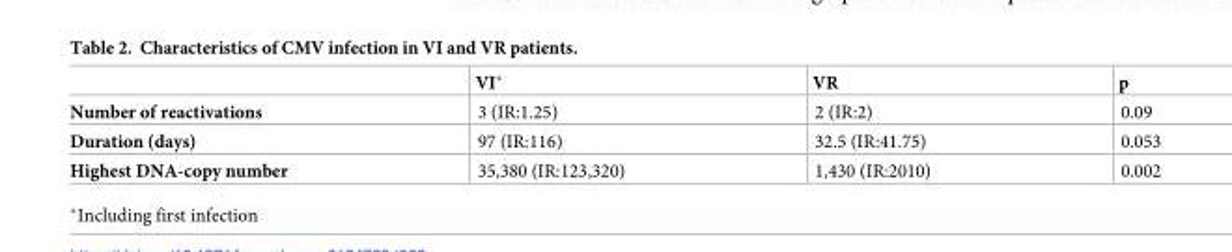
<table><thead><tr><td></td><td>VI*</td><td>VR</td><td>p</td></tr></thead><tbody><tr><td>Number of reactivations</td><td>3 (IR:1.25)</td><td>2 (IR:2)</td><td>0.09</td></tr><tr><td>Duration (days)</td><td>97 (IR:116)</td><td>32.5 (IR:41.75)</td><td>0.053</td></tr><tr><td>Highest DNA-copy number</td><td>35,380 (IR:123,320)</td><td>1,430 (IR:2010)</td><td>0.002</td></tr></tbody></table>